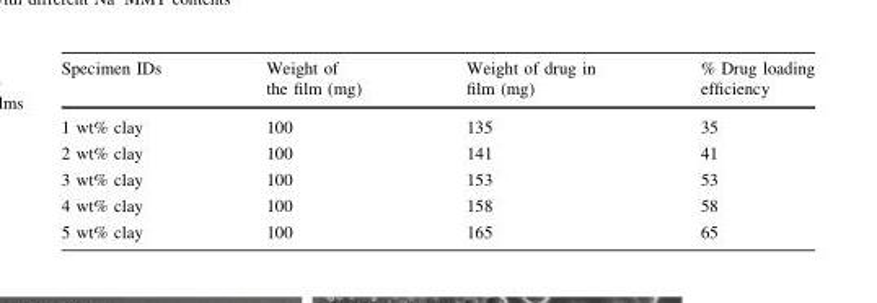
<table><thead><tr><td>Specimen IDs</td><td>Weight of the film (mg)</td><td>Weight of drug in film (mg)</td><td>% Drug loading efficiency</td></tr></thead><tbody><tr><td>1 wt% clay</td><td>100</td><td>135</td><td>35</td></tr><tr><td>2 wt% clay</td><td>100</td><td>141</td><td>41</td></tr><tr><td>3 wt% clay</td><td>100</td><td>153</td><td>53</td></tr><tr><td>4 wt% clay</td><td>100</td><td>158</td><td>58</td></tr><tr><td>5 wt% clay</td><td>100</td><td>165</td><td>65</td></tr></tbody></table>